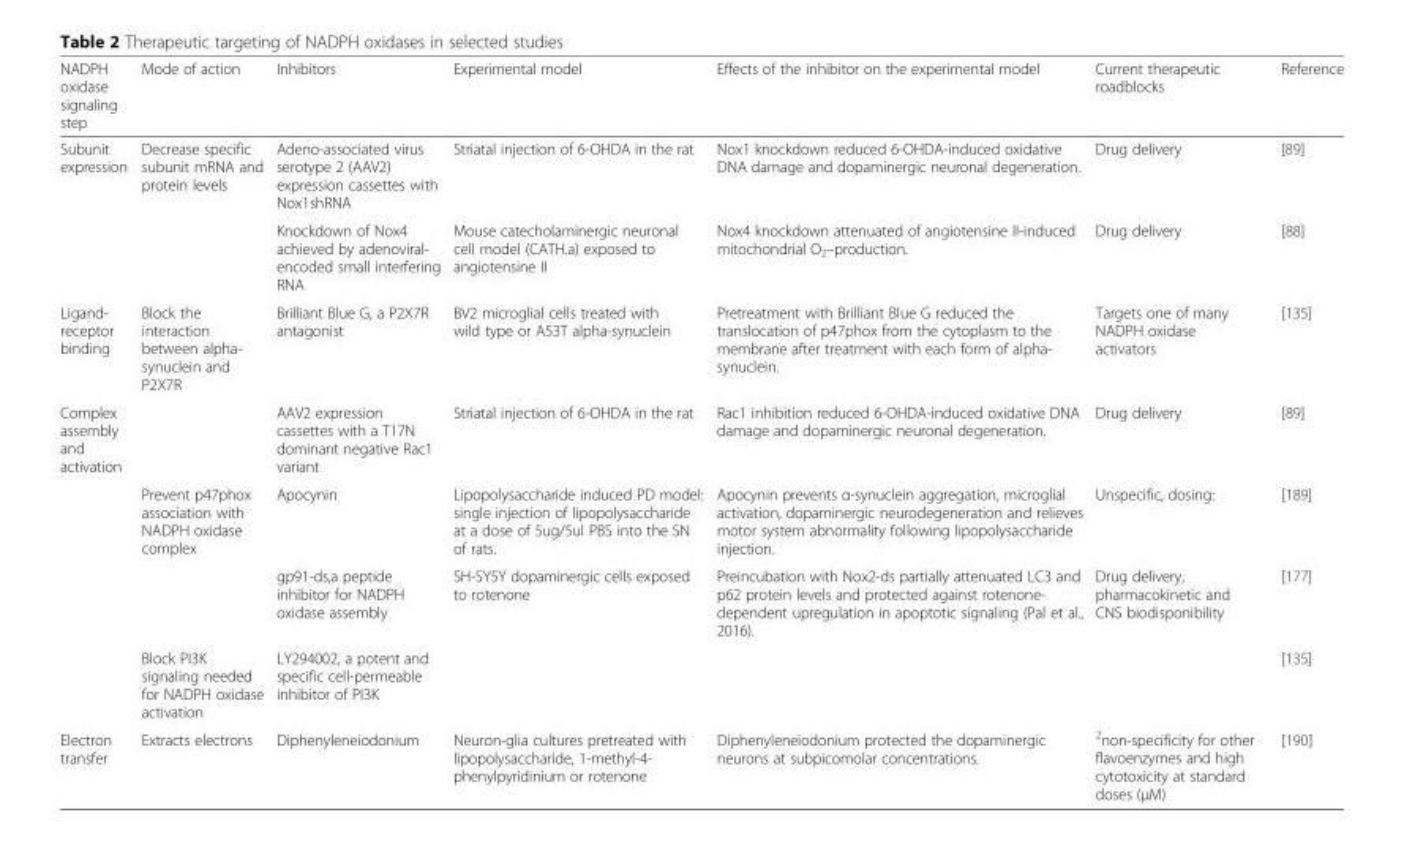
<table><thead><tr><td>NADPH oxidase signaling step</td><td>Mode of action</td><td>Inhibitors</td><td>Experimental model</td><td>Effects of the inhibitor on the experimental model</td><td>Current therapeutic roadblocks</td><td>Reference</td></tr></thead><tbody><tr><td rowspan="2">Subunit expression</td><td>Decrease specific subunit mRNA and protein levels</td><td>Adeno-associated virus serotype 2 (AAV2) expression cassettes with Nox1shRNA</td><td>Striatal injection of 6-OHDA in the rat</td><td>Nox1 knockdown reduced 6-OHDA-induced oxidative DNA damage and dopaminergic neuronal degeneration.</td><td>Drug delivery</td><td>[89]</td></tr><tr><td></td><td>Knockdown of Nox4 achieved by adenoviral- encoded small interfering RNA</td><td>Mouse catecholaminergic neuronal cell model (CATH.a) exposed to angiotensine II</td><td>Nox4 knockdown attenuated of angiotensine II-induced mitochondrial O<sub>2</sub>∙-production.</td><td>Drug delivery</td><td>[88]</td></tr><tr><td>Ligand- receptor binding</td><td>Block the interaction between alpha- synuclein and P2X7R</td><td>Brilliant Blue G, a P2X7R antagonist</td><td>BV2 microglial cells treated with wild type or A53T alpha-synuclein</td><td>Pretreatment with Brilliant Blue G reduced the translocation of p47phox from the cytoplasm to the membrane after treatment with each form of alpha- synuclein.</td><td>Targets one of many NADPH oxidase activators</td><td>[135]</td></tr><tr><td rowspan="4">Complex assembly and activation</td><td></td><td>AAV2 expression cassettes with a T17N dominant negative Rac1 variant</td><td>Striatal injection of 6-OHDA in the rat</td><td>Rac1 inhibition reduced 6-OHDA-induced oxidative DNA damage and dopaminergic neuronal degeneration.</td><td>Drug delivery</td><td>[89]</td></tr><tr><td>Prevent p47phox association with NADPH oxidase complex</td><td>Apocynin</td><td>Lipopolysaccharide induced PD model: single injection of lipopolysaccharide at a dose of 5ug/5ul PBS into the SN of rats.</td><td>Apocynin prevents α-synuclein aggregation, microglial activation, dopaminergic neurodegeneration and relieves motor system abnormality following lipopolysaccharide injection.</td><td>Unspecific, dosing:</td><td>[189]</td></tr><tr><td></td><td>gp91-ds,a peptide inhibitor for NADPH oxidase assembly</td><td>SH-SY5Y dopaminergic cells exposed to rotenone</td><td>Preincubation with Nox2-ds partially attenuated LC3 and p62 protein levels and protected against rotenone- dependent upregulation in apoptotic signaling (Pal et al., 2016).</td><td>Drug delivery, pharmacokinetic and CNS biodisponibility</td><td>[177]</td></tr><tr><td>Block PI3K signaling needed for NADPH oxidase activation</td><td>LY294002, a potent and specific cell-permeable inhibitor of PI3K</td><td></td><td></td><td></td><td>[135]</td></tr><tr><td>Electron transfer</td><td>Extracts electrons</td><td>Diphenyleneiodonium</td><td>Neuron-glia cultures pretreated with lipopolysaccharide, 1-methyl-4- phenylpyridinium or rotenone</td><td>Diphenyleneiodonium protected the dopaminergic neurons at subpicomolar concentrations.</td><td><sup>2</sup>non-specificity for other flavoenzymes and high cytotoxicity at standard doses (μM)</td><td>[190]</td></tr></tbody></table>